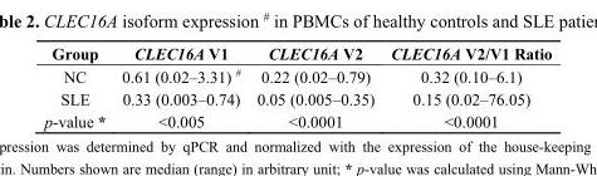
<table><thead><tr><td>Group</td><td>CLEC16A V1</td><td>CLEC16A V2</td><td>CLEC16A V2/V1 Ratio</td></tr></thead><tbody><tr><td>NC</td><td>0.61 (0.02–3.31) <sup>#</sup></td><td>0.22 (0.02–0.79)</td><td>0.32 (0.10–6.1)</td></tr><tr><td>SLE</td><td>0.33 (0.003–0.74)</td><td>0.05 (0.005–0.35)</td><td>0.15 (0.02–76.05)</td></tr><tr><td>p-value *</td><td>&lt;0.005</td><td>&lt;0.0001</td><td>&lt;0.0001</td></tr></tbody></table>